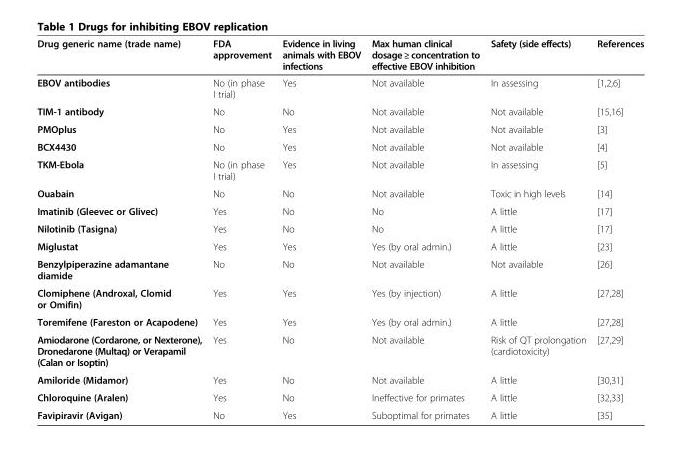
<table><thead><tr><td>Drug generic name (trade name)</td><td>FDA approvement</td><td>Evidence in living animals with EBOV infections</td><td>Max human clinical dosage ≥ concentration to effective EBOV inhibition</td><td>Safety (side effects)</td><td>References</td></tr></thead><tbody><tr><td>EBOV antibodies</td><td>No (in phase I trial)</td><td>Yes</td><td>Not available</td><td>In assessing</td><td>[1,2,6]</td></tr><tr><td>TIM-1 antibody</td><td>No</td><td>No</td><td>Not available</td><td>Not available</td><td>[15,16]</td></tr><tr><td>PMOplus</td><td>No</td><td>Yes</td><td>Not available</td><td>Not available</td><td>[3]</td></tr><tr><td>BCX4430</td><td>No</td><td>Yes</td><td>Not available</td><td>Not available</td><td>[4]</td></tr><tr><td>TKM-Ebola</td><td>No (in phase I trial)</td><td>Yes</td><td>Not available</td><td>In assessing</td><td>[5]</td></tr><tr><td>Ouabain</td><td>No</td><td>No</td><td>Not available</td><td>Toxic in high levels</td><td>[14]</td></tr><tr><td>Imatinib (Gleevec or Glivec)</td><td>Yes</td><td>No</td><td>No</td><td>A little</td><td>[17]</td></tr><tr><td>Nilotinib (Tasigna)</td><td>Yes</td><td>No</td><td>No</td><td>A little</td><td>[17]</td></tr><tr><td>Miglustat</td><td>Yes</td><td>Yes</td><td>Yes (by oral admin.)</td><td>A little</td><td>[23]</td></tr><tr><td>Benzylpiperazine adamantane diamide</td><td>No</td><td>No</td><td>Not available</td><td>Not available</td><td>[26]</td></tr><tr><td>Clomiphene (Androxal, Clomid or Omifin)</td><td>Yes</td><td>Yes</td><td>Yes (by injection)</td><td>A little</td><td>[27,28]</td></tr><tr><td>Toremifene (Fareston or Acapodene)</td><td>Yes</td><td>Yes</td><td>Yes (by oral admin.)</td><td>A little</td><td>[27,28]</td></tr><tr><td>Amiodarone (Cordarone, or Nexterone), Dronedarone (Multaq) or Verapamil (Calan or Isoptin)</td><td>Yes</td><td>No</td><td>Not available</td><td>Risk of QT prolongation (cardiotoxicity)</td><td>[27,29]</td></tr><tr><td>Amiloride (Midamor)</td><td>Yes</td><td>No</td><td>Not available</td><td>A little</td><td>[30,31]</td></tr><tr><td>Chloroquine (Aralen)</td><td>Yes</td><td>No</td><td>Ineffective for primates</td><td>A little</td><td>[32,33]</td></tr><tr><td>Favipiravir (Avigan)</td><td>No</td><td>Yes</td><td>Suboptimal for primates</td><td>A little</td><td>[35]</td></tr></tbody></table>